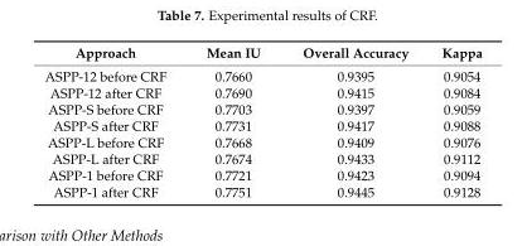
<table><thead><tr><td>Approach</td><td>Mean IU</td><td>Overall Accuracy</td><td>Kappa</td></tr></thead><tbody><tr><td>ASPP-12 before CRF</td><td>0.7660</td><td>0.9395</td><td>0.9054</td></tr><tr><td>ASPP-12 after CRF</td><td>0.7690</td><td>0.9415</td><td>0.9084</td></tr><tr><td>ASPP-S before CRF</td><td>0.7703</td><td>0.9397</td><td>0.9059</td></tr><tr><td>ASPP-S after CRF</td><td>0.7731</td><td>0.9417</td><td>0.9088</td></tr><tr><td>ASPP-L before CRF</td><td>0.7668</td><td>0.9409</td><td>0.9076</td></tr><tr><td>ASPP-L after CRF</td><td>0.7674</td><td>0.9433</td><td>0.9112</td></tr><tr><td>ASPP-1 before CRF</td><td>0.7721</td><td>0.9423</td><td>0.9094</td></tr><tr><td>ASPP-1 after CRF</td><td>0.7751</td><td>0.9445</td><td>0.9128</td></tr></tbody></table>